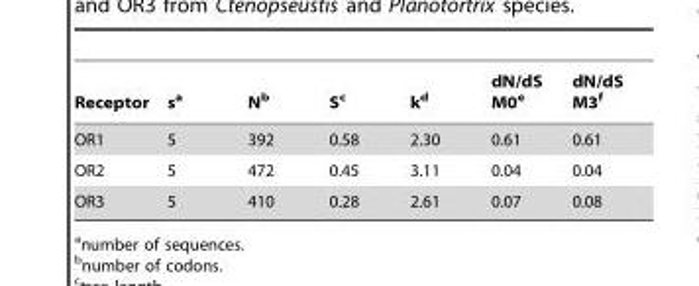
<table><thead><tr><td>Receptor</td><td>s<sup>a</sup></td><td>N<sup>b</sup></td><td>S<sup>c</sup></td><td>k<sup>d</sup></td><td>dN/dS M0<sup>e</sup></td><td>dN/dS M3<sup>f</sup></td></tr></thead><tbody><tr><td>OR1</td><td>5</td><td>392</td><td>0.58</td><td>2.30</td><td>0.61</td><td>0.61</td></tr><tr><td>OR2</td><td>5</td><td>472</td><td>0.45</td><td>3.11</td><td>0.04</td><td>0.04</td></tr><tr><td>OR3</td><td>5</td><td>410</td><td>0.28</td><td>2.61</td><td>0.07</td><td>0.08</td></tr></tbody></table>